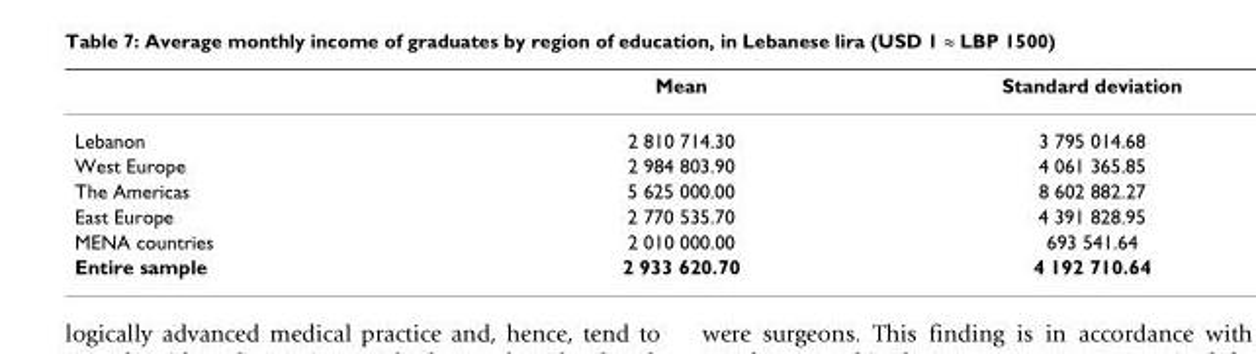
<table><thead><tr><td></td><td>Mean</td><td>Standard deviation</td></tr></thead><tbody><tr><td>Lebanon</td><td>2 810 714.30</td><td>3 795 014.68</td></tr><tr><td>West Europe</td><td>2 984 803.90</td><td>4 061 365.85</td></tr><tr><td>The Americas</td><td>5 625 000.00</td><td>8 602 882.27</td></tr><tr><td>East Europe</td><td>2 770 535.70</td><td>4 391 828.95</td></tr><tr><td>MENA countries</td><td>2 010 000.00</td><td>693 541.64</td></tr><tr><td>Entire sample</td><td>2 933 620.70</td><td>4 192 710.64</td></tr></tbody></table>